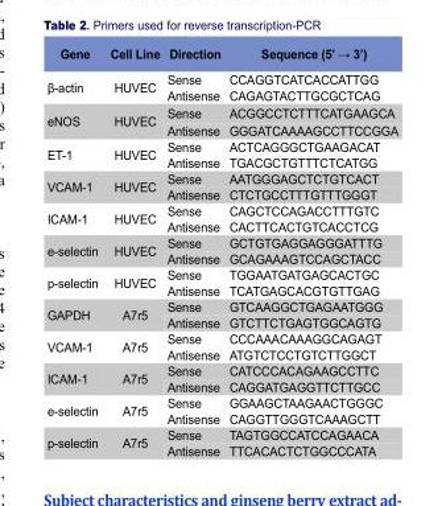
<table><thead><tr><td>Gene</td><td>Cell Line</td><td>Direction</td><td>Sequence (5’ → 3’)</td></tr></thead><tbody><tr><td rowspan="2">β-actin</td><td rowspan="2">HUVEC</td><td>Sense</td><td>CCAGGTCATCACCATTGG</td></tr><tr><td>Antisense</td><td>CAGAGTACTTGCGCTCAG</td></tr><tr><td rowspan="2">eNOS</td><td rowspan="2">HUVEC</td><td>Sense</td><td>ACGGCCTCTTTCATGAAGCA</td></tr><tr><td>Antisense</td><td>GGGATCAAAAGCCTTCCGGA</td></tr><tr><td rowspan="2">ET-1</td><td rowspan="2">HUVEC</td><td>Sense</td><td>ACTCAGGGCTGAAGACAT</td></tr><tr><td>Antisense</td><td>TGACGCTGTTTCTCATGG</td></tr><tr><td rowspan="2">VCAM-1</td><td rowspan="2">HUVEC</td><td>Sense</td><td>AATGGGAGCTCTGTCACT</td></tr><tr><td>Antisense</td><td>CTCTGCCTTTGTTTGGGT</td></tr><tr><td rowspan="2">ICAM-1</td><td rowspan="2">HUVEC</td><td>Sense</td><td>CAGCTCCAGACCTTTGTC</td></tr><tr><td>Antisense</td><td>CACTTCACTGTCACCTCG</td></tr><tr><td rowspan="2">e-selectin</td><td rowspan="2">HUVEC</td><td>Sense</td><td>GCTGTGAGGAGGGATTTG</td></tr><tr><td>Antisense</td><td>GCAGAAAGTCCAGCTACC</td></tr><tr><td rowspan="2">p-selectin</td><td rowspan="2">HUVEC</td><td>Sense</td><td>TGGAATGATGAGCACTGC</td></tr><tr><td>Antisense</td><td>TCATGAGCACGTGTTGAG</td></tr><tr><td rowspan="2">GAPDH</td><td rowspan="2">A7r5</td><td>Sense</td><td>GTCAAGGCTGAGAATGGG</td></tr><tr><td>Antisense</td><td>GTCTTCTGAGTGGCAGTG</td></tr><tr><td rowspan="2">VCAM-1</td><td rowspan="2">A7r5</td><td>Sense</td><td>CCCAAACAAAGGCAGAGT</td></tr><tr><td>Antisense</td><td>ATGTCTCCTGTCTTGGCT</td></tr><tr><td rowspan="2">ICAM-1</td><td rowspan="2">A7r5</td><td>Sense</td><td>CATCCCACAGAAGCCTTC</td></tr><tr><td>Antisense</td><td>CAGGATGAGGTTCTTGCC</td></tr><tr><td rowspan="2">e-selectin</td><td rowspan="2">A7r5</td><td>Sense</td><td>GGAAGCTAAGAACTGGGC</td></tr><tr><td>Antisense</td><td>CAGGTTGGGTCAAAGCTT</td></tr><tr><td rowspan="2">p-selectin</td><td rowspan="2">A7r5</td><td>Sense</td><td>TAGTGGCCATCCAGAACA</td></tr><tr><td>Antisense</td><td>TTCACACTCTGGCCCATA</td></tr></tbody></table>